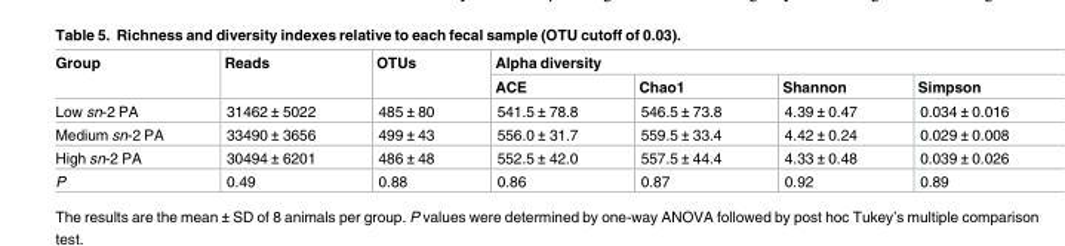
<table><thead><tr><td rowspan="2">Group</td><td rowspan="2">Reads</td><td rowspan="2">OTUs</td><td colspan="4">Alpha diversity</td></tr><tr><td>ACE</td><td>Chao1</td><td>Shannon</td><td>Simpson</td></tr></thead><tbody><tr><td>Low sn-2 PA</td><td>31462 ± 5022</td><td>485 ± 80</td><td>541.5 ± 78.8</td><td>546.5 ± 73.8</td><td>4.39 ± 0.47</td><td>0.034 ± 0.016</td></tr><tr><td>Medium sn-2 PA</td><td>33490 ± 3656</td><td>499 ± 43</td><td>556.0 ± 31.7</td><td>559.5 ± 33.4</td><td>4.42 ± 0.24</td><td>0.029 ± 0.008</td></tr><tr><td>High sn-2 PA</td><td>30494 ± 6201</td><td>486 ± 48</td><td>552.5 ± 42.0</td><td>557.5 ± 44.4</td><td>4.33 ± 0.48</td><td>0.039 ± 0.026</td></tr><tr><td>P</td><td>0.49</td><td>0.88</td><td>0.86</td><td>0.87</td><td>0.92</td><td>0.89</td></tr></tbody></table>